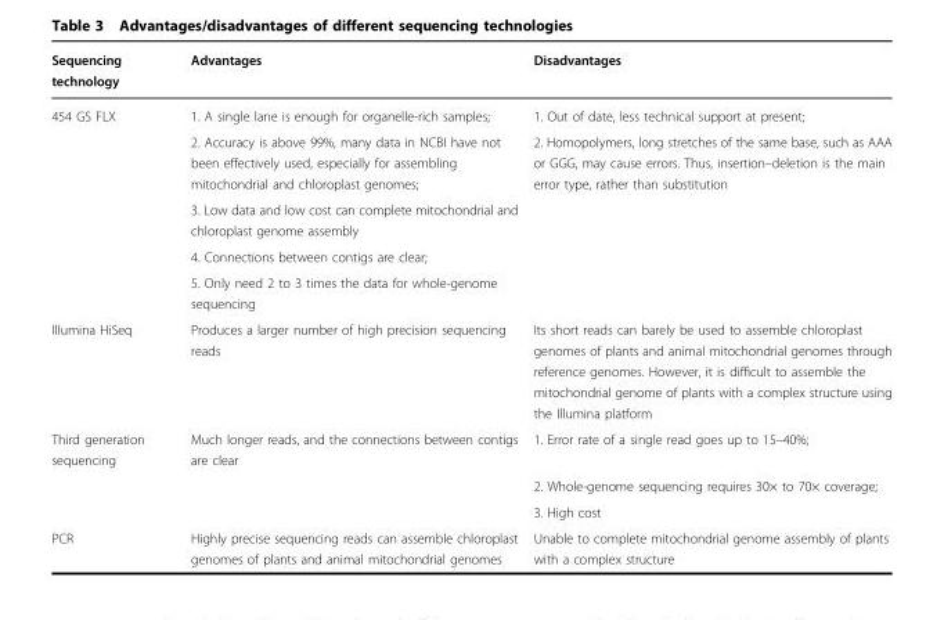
<table><thead><tr><td>Sequencing technology</td><td>Advantages</td><td>Disadvantages</td></tr></thead><tbody><tr><td rowspan="5">454 GS FLX</td><td>1. A single lane is enough for organelle-rich samples;</td><td>1. Out of date, less technical support at present;</td></tr><tr><td>2. Accuracy is above 99%, many data in NCBI have not been effectively used, especially for assembling mitochondrial and chloroplast genomes;</td><td>2. Homopolymers, long stretches of the same base, such as AAA or GGG, may cause errors. Thus, insertion–deletion is the main error type, rather than substitution</td></tr><tr><td>3. Low data and low cost can complete mitochondrial and chloroplast genome assembly</td><td></td></tr><tr><td>4. Connections between contigs are clear;</td><td></td></tr><tr><td>5. Only need 2 to 3 times the data for whole-genome sequencing</td><td></td></tr><tr><td>Illumina HiSeq</td><td>Produces a larger number of high precision sequencing reads</td><td>Its short reads can barely be used to assemble chloroplast genomes of plants and animal mitochondrial genomes through reference genomes. However, it is difficult to assemble the mitochondrial genome of plants with a complex structure using the Illumina platform</td></tr><tr><td rowspan="3">Third generation sequencing</td><td>Much longer reads, and the connections between contigs are clear</td><td>1. Error rate of a single read goes up to 15–40%;</td></tr><tr><td></td><td>2. Whole-genome sequencing requires 30× to 70× coverage;</td></tr><tr><td></td><td>3. High cost</td></tr><tr><td>PCR</td><td>Highly precise sequencing reads can assemble chloroplast genomes of plants and animal mitochondrial genomes</td><td>Unable to complete mitochondrial genome assembly of plants with a complex structure</td></tr></tbody></table>